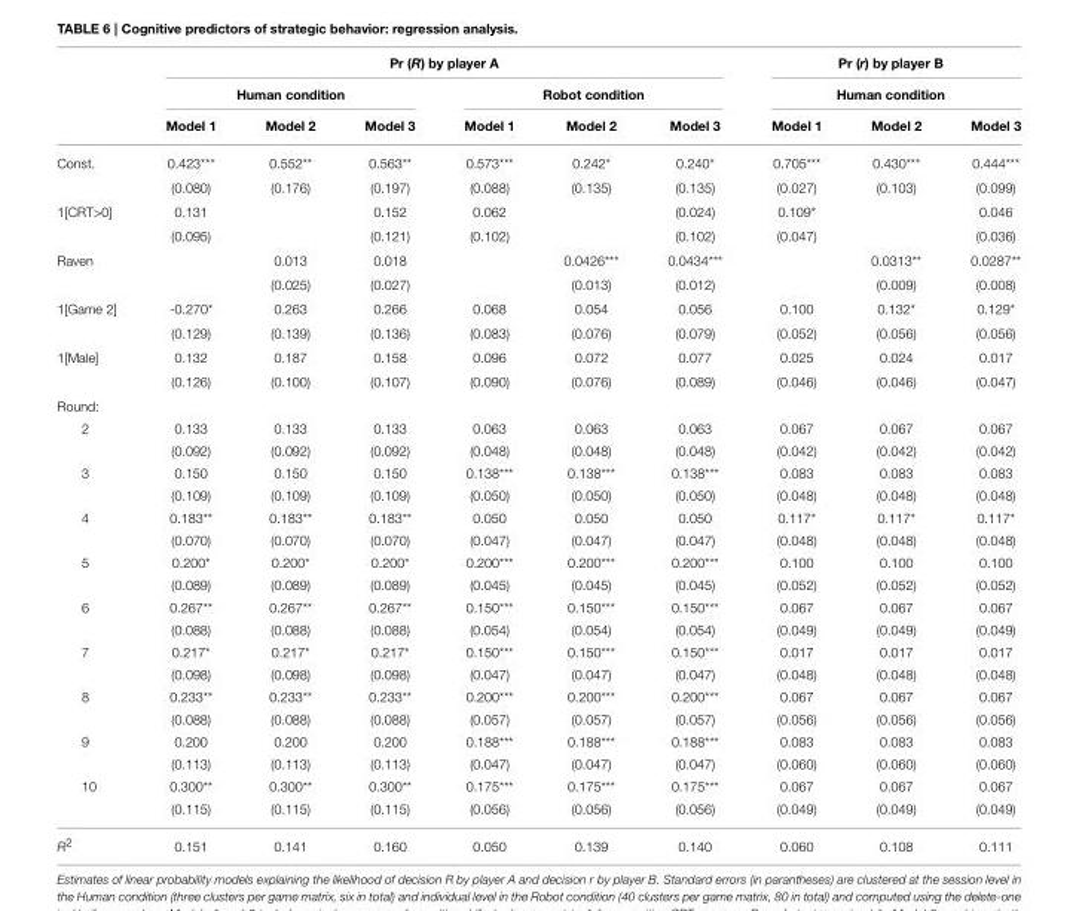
<table><thead><tr><td rowspan="3"></td><td colspan="6">Pr (R) by player A</td><td rowspan="2" colspan="3">Pr (r) by player B Human condition</td></tr><tr><td colspan="3">Human condition</td><td colspan="3">Robot condition</td></tr><tr><td>Model 1</td><td>Model 2</td><td>Model 3</td><td>Model 1</td><td>Model 2</td><td>Model 3</td><td>Model 1</td><td>Model 2</td><td>Model 3</td></tr></thead><tbody><tr><td rowspan="2">Const.</td><td>0.423***</td><td>0.552**</td><td>0.563**</td><td>0.573***</td><td>0.242*</td><td>0.240*</td><td>0.705***</td><td>0.430***</td><td>0.444***</td></tr><tr><td>(0.080)</td><td>(0.176)</td><td>(0.197)</td><td>(0.088)</td><td>(0.135)</td><td>(0.135)</td><td>(0.027)</td><td>(0.103)</td><td>(0.099)</td></tr><tr><td rowspan="2">1[CRT&gt;0]</td><td>0.131</td><td></td><td>0.152</td><td>0.062</td><td></td><td>(0.024)</td><td>0.109*</td><td></td><td>0.046</td></tr><tr><td>(0.095)</td><td></td><td>(0.121)</td><td>(0.102)</td><td></td><td>(0.102)</td><td>(0.047)</td><td></td><td>(0.036)</td></tr><tr><td rowspan="2">Raven</td><td></td><td>0.013</td><td>0.018</td><td></td><td>0.0426***</td><td>0.0434***</td><td></td><td>0.0313**</td><td>0.0287**</td></tr><tr><td></td><td>(0.025)</td><td>(0.027)</td><td></td><td>(0.013)</td><td>(0.012)</td><td></td><td>(0.009)</td><td>(0.008)</td></tr><tr><td rowspan="2">1[Game 2]</td><td>-0.270*</td><td>0.263</td><td>0.266</td><td>0.068</td><td>0.054</td><td>0.056</td><td>0.100</td><td>0.132*</td><td>0.129*</td></tr><tr><td>(0.129)</td><td>(0.139)</td><td>(0.136)</td><td>(0.083)</td><td>(0.076)</td><td>(0.079)</td><td>(0.052)</td><td>(0.056)</td><td>(0.056)</td></tr><tr><td rowspan="2">1[Male]</td><td>0.132</td><td>0.187</td><td>0.158</td><td>0.096</td><td>0.072</td><td>0.077</td><td>0.025</td><td>0.024</td><td>0.017</td></tr><tr><td>(0.126)</td><td>(0.100)</td><td>(0.107)</td><td>(0.090)</td><td>(0.076)</td><td>(0.089)</td><td>(0.046)</td><td>(0.046)</td><td>(0.047)</td></tr><tr><td colspan="10">Round:</td></tr><tr><td rowspan="2">2</td><td>0.133</td><td>0.133</td><td>0.133</td><td>0.063</td><td>0.063</td><td>0.063</td><td>0.067</td><td>0.067</td><td>0.067</td></tr><tr><td>(0.092)</td><td>(0.092)</td><td>(0.092)</td><td>(0.048)</td><td>(0.048)</td><td>(0.048)</td><td>(0.042)</td><td>(0.042)</td><td>(0.042)</td></tr><tr><td rowspan="2">3</td><td>0.150</td><td>0.150</td><td>0.150</td><td>0.138***</td><td>0.138***</td><td>0.138***</td><td>0.083</td><td>0.083</td><td>0.083</td></tr><tr><td>(0.109)</td><td>(0.109)</td><td>(0.109)</td><td>(0.050)</td><td>(0.050)</td><td>(0.050)</td><td>(0.048)</td><td>(0.048)</td><td>(0.048)</td></tr><tr><td rowspan="2">4</td><td>0.183**</td><td>0.183**</td><td>0.183**</td><td>0.050</td><td>0.050</td><td>0.050</td><td>0.117*</td><td>0.117*</td><td>0.117*</td></tr><tr><td>(0.070)</td><td>(0.070)</td><td>(0.070)</td><td>(0.047)</td><td>(0.047)</td><td>(0.047)</td><td>(0.048)</td><td>(0.048)</td><td>(0.048)</td></tr><tr><td rowspan="2">5</td><td>0.200*</td><td>0.200*</td><td>0.200*</td><td>0.200***</td><td>0.200***</td><td>0.200***</td><td>0.100</td><td>0.100</td><td>0.100</td></tr><tr><td>(0.089)</td><td>(0.089)</td><td>(0.089)</td><td>(0.045)</td><td>(0.045)</td><td>(0.045)</td><td>(0.052)</td><td>(0.052)</td><td>(0.052)</td></tr><tr><td rowspan="2">6</td><td>0.267**</td><td>0.267**</td><td>0.267**</td><td>0.150***</td><td>0.150***</td><td>0.150***</td><td>0.067</td><td>0.067</td><td>0.067</td></tr><tr><td>(0.088)</td><td>(0.088)</td><td>(0.088)</td><td>(0.054)</td><td>(0.054)</td><td>(0.054)</td><td>(0.049)</td><td>(0.049)</td><td>(0.049)</td></tr><tr><td rowspan="2">7</td><td>0.217*</td><td>0.217*</td><td>0.217*</td><td>0.150***</td><td>0.150***</td><td>0.150***</td><td>0.017</td><td>0.017</td><td>0.017</td></tr><tr><td>(0.098)</td><td>(0.098)</td><td>(0.098)</td><td>(0.047)</td><td>(0.047)</td><td>(0.047)</td><td>(0.048)</td><td>(0.048)</td><td>(0.048)</td></tr><tr><td rowspan="2">8</td><td>0.233**</td><td>0.233**</td><td>0.233**</td><td>0.200***</td><td>0.200***</td><td>0.200***</td><td>0.067</td><td>0.067</td><td>0.067</td></tr><tr><td>(0.088)</td><td>(0.088)</td><td>(0.088)</td><td>(0.057)</td><td>(0.057)</td><td>(0.057)</td><td>(0.056)</td><td>(0.056)</td><td>(0.056)</td></tr><tr><td rowspan="2">9</td><td>0.200</td><td>0.200</td><td>0.200</td><td>0.188***</td><td>0.188***</td><td>0.188***</td><td>0.083</td><td>0.083</td><td>0.083</td></tr><tr><td>(0.113)</td><td>(0.113)</td><td>(0.113)</td><td>(0.047)</td><td>(0.047)</td><td>(0.047)</td><td>(0.060)</td><td>(0.060)</td><td>(0.060)</td></tr><tr><td rowspan="2">10</td><td>0.300**</td><td>0.300**</td><td>0.300**</td><td>0.175***</td><td>0.175***</td><td>0.175***</td><td>0.067</td><td>0.067</td><td>0.067</td></tr><tr><td>(0.115)</td><td>(0.115)</td><td>(0.115)</td><td>(0.056)</td><td>(0.056)</td><td>(0.056)</td><td>(0.049)</td><td>(0.049)</td><td>(0.049)</td></tr><tr><td>R<sup>2</sup></td><td>0.151</td><td>0.141</td><td>0.160</td><td>0.050</td><td>0.139</td><td>0.140</td><td>0.060</td><td>0.108</td><td>0.111</td></tr></tbody></table>